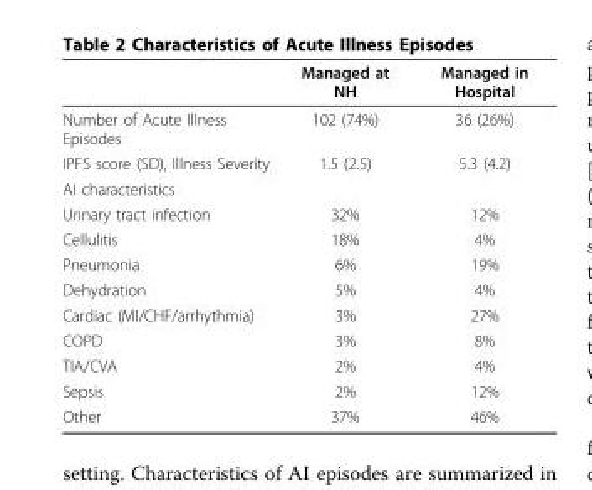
<table><thead><tr><td></td><td>Managed at NH</td><td>Managed in Hospital</td></tr></thead><tbody><tr><td>Number of Acute Illness Episodes</td><td>102 (74%)</td><td>36 (26%)</td></tr><tr><td>IPFS score (SD), Illness Severity</td><td>1.5 (2.5)</td><td>5.3 (4.2)</td></tr><tr><td colspan="3">AI characteristics</td></tr><tr><td>Urinary tract infection</td><td>32%</td><td>12%</td></tr><tr><td>Cellulitis</td><td>18%</td><td>4%</td></tr><tr><td>Pneumonia</td><td>6%</td><td>19%</td></tr><tr><td>Dehydration</td><td>5%</td><td>4%</td></tr><tr><td>Cardiac (MI/CHF/arrhythmia)</td><td>3%</td><td>27%</td></tr><tr><td>COPD</td><td>3%</td><td>8%</td></tr><tr><td>TIA/CVA</td><td>2%</td><td>4%</td></tr><tr><td>Sepsis</td><td>2%</td><td>12%</td></tr><tr><td>Other</td><td>37%</td><td>46%</td></tr></tbody></table>